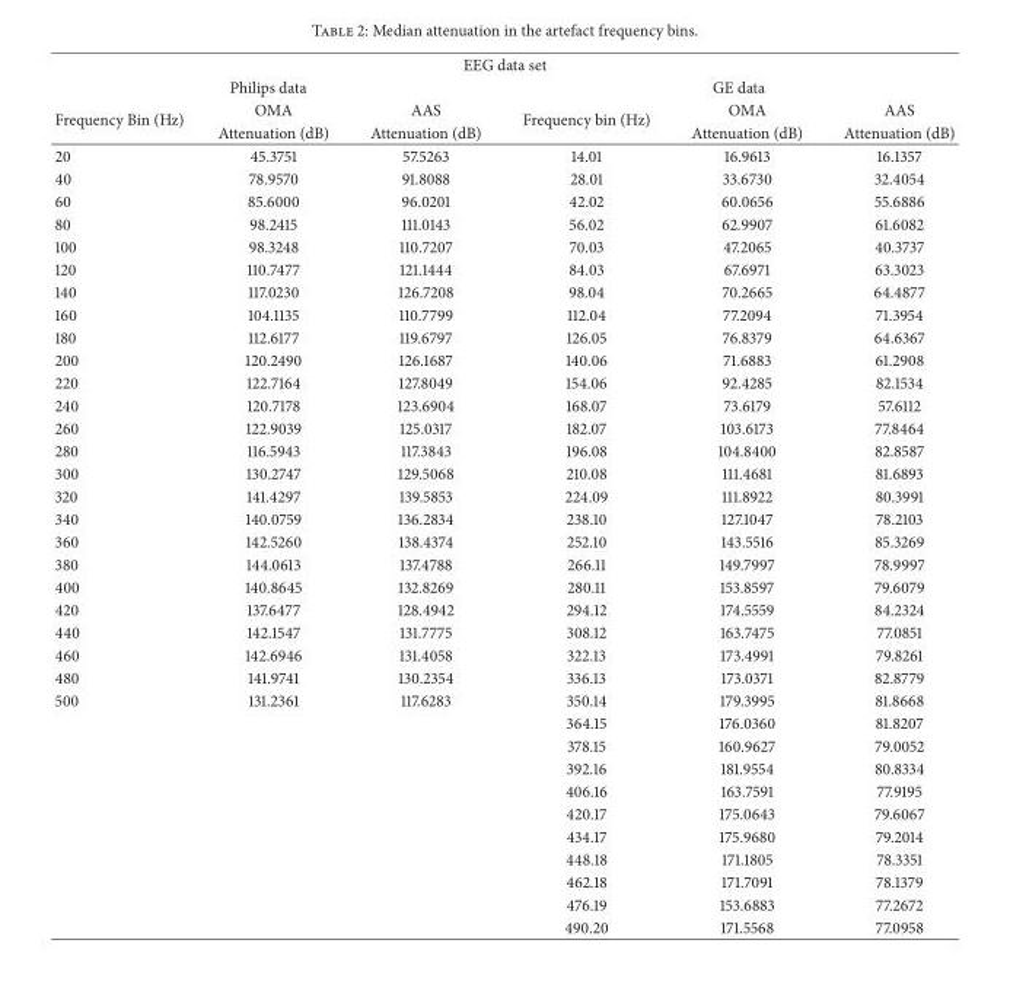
<table><thead><tr><td colspan="6">EEG data set</td></tr><tr><td colspan="3">Philips data</td><td colspan="3">GE data</td></tr><tr><td rowspan="2">Frequency Bin (Hz)</td><td rowspan="2">OMA Attenuation (dB)</td><td rowspan="2">AAS Attenuation (dB)</td><td rowspan="2">Frequency bin (Hz)</td><td rowspan="2">OMA Attenuation (dB)</td><td rowspan="2">AAS Attenuation (dB)</td></tr><tr></tr></thead><tbody><tr><td>20</td><td>45.3751</td><td>57.5263</td><td>14.01</td><td>16.9613</td><td>16.1357</td></tr><tr><td>40</td><td>78.9570</td><td>91.8088</td><td>28.01</td><td>33.6730</td><td>32.4054</td></tr><tr><td>60</td><td>85.6000</td><td>96.0201</td><td>42.02</td><td>60.0656</td><td>55.6886</td></tr><tr><td>80</td><td>98.2415</td><td>111.0143</td><td>56.02</td><td>62.9907</td><td>61.6082</td></tr><tr><td>100</td><td>98.3248</td><td>110.7207</td><td>70.03</td><td>47.2065</td><td>40.3737</td></tr><tr><td>120</td><td>110.7477</td><td>121.1444</td><td>84.03</td><td>67.6971</td><td>63.3023</td></tr><tr><td>140</td><td>117.0230</td><td>126.7208</td><td>98.04</td><td>70.2665</td><td>64.4877</td></tr><tr><td>160</td><td>104.1135</td><td>110.7799</td><td>112.04</td><td>77.2094</td><td>71.3954</td></tr><tr><td>180</td><td>112.6177</td><td>119.6797</td><td>126.05</td><td>76.8379</td><td>64.6367</td></tr><tr><td>200</td><td>120.2490</td><td>126.1687</td><td>140.06</td><td>71.6883</td><td>61.2908</td></tr><tr><td>220</td><td>122.7164</td><td>127.8049</td><td>154.06</td><td>92.4285</td><td>82.1534</td></tr><tr><td>240</td><td>120.7178</td><td>123.6904</td><td>168.07</td><td>73.6179</td><td>57.6112</td></tr><tr><td>260</td><td>122.9039</td><td>125.0317</td><td>182.07</td><td>103.6173</td><td>77.8464</td></tr><tr><td>280</td><td>116.5943</td><td>117.3843</td><td>196.08</td><td>104.8400</td><td>82.8587</td></tr><tr><td>300</td><td>130.2747</td><td>129.5068</td><td>210.08</td><td>111.4681</td><td>81.6893</td></tr><tr><td>320</td><td>141.4297</td><td>139.5853</td><td>224.09</td><td>111.8922</td><td>80.3991</td></tr><tr><td>340</td><td>140.0759</td><td>136.2834</td><td>238.10</td><td>127.1047</td><td>78.2103</td></tr><tr><td>360</td><td>142.5260</td><td>138.4374</td><td>252.10</td><td>143.5516</td><td>85.3269</td></tr><tr><td>380</td><td>144.0613</td><td>137.4788</td><td>266.11</td><td>149.7997</td><td>78.9997</td></tr><tr><td>400</td><td>140.8645</td><td>132.8269</td><td>280.11</td><td>153.8597</td><td>79.6079</td></tr><tr><td>420</td><td>137.6477</td><td>128.4942</td><td>294.12</td><td>174.5559</td><td>84.2324</td></tr><tr><td>440</td><td>142.1547</td><td>131.7775</td><td>308.12</td><td>163.7475</td><td>77.0851</td></tr><tr><td>460</td><td>142.6946</td><td>131.4058</td><td>322.13</td><td>173.4991</td><td>79.8261</td></tr><tr><td>480</td><td>141.9741</td><td>130.2354</td><td>336.13</td><td>173.0371</td><td>82.8779</td></tr><tr><td rowspan="11">500</td><td>131.2361</td><td>117.6283</td><td>350.14</td><td>179.3995</td><td>81.8668</td></tr><tr><td></td><td></td><td>364.15</td><td>176.0360</td><td>81.8207</td></tr><tr><td></td><td></td><td>378.15</td><td>160.9627</td><td>79.0052</td></tr><tr><td></td><td></td><td>392.16</td><td>181.9554</td><td>80.8334</td></tr><tr><td></td><td></td><td>406.16</td><td>163.7591</td><td>77.9195</td></tr><tr><td></td><td></td><td>420.17</td><td>175.0643</td><td>79.6067</td></tr><tr><td></td><td></td><td>434.17</td><td>175.9680</td><td>79.2014</td></tr><tr><td></td><td></td><td>448.18</td><td>171.1805</td><td>78.3351</td></tr><tr><td></td><td></td><td>462.18</td><td>171.7091</td><td>78.1379</td></tr><tr><td></td><td></td><td>476.19</td><td>153.6883</td><td>77.2672</td></tr><tr><td></td><td></td><td>490.20</td><td>171.5568</td><td>77.0958</td></tr></tbody></table>